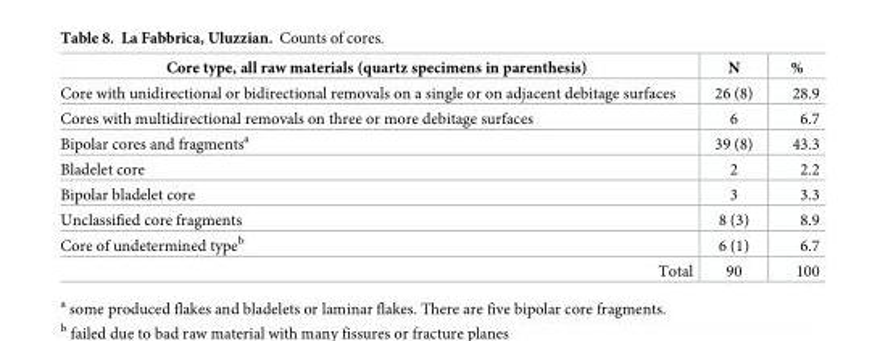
<table><thead><tr><td>Core type, all raw materials (quartz specimens in parenthesis)</td><td>N</td><td>%</td></tr></thead><tbody><tr><td>Core with unidirectional or bidirectional removals on a single or on adjacent debitage surfaces</td><td>26 (8)</td><td>28.9</td></tr><tr><td>Cores with multidirectional removals on three or more debitage surfaces</td><td>6</td><td>6.7</td></tr><tr><td>Bipolar cores and fragments<sup>a</sup></td><td>39 (8)</td><td>43.3</td></tr><tr><td>Bladelet core</td><td>2</td><td>2.2</td></tr><tr><td>Bipolar bladelet core</td><td>3</td><td>3.3</td></tr><tr><td>Unclassified core fragments</td><td>8 (3)</td><td>8.9</td></tr><tr><td>Core of undetermined type<sup>b</sup></td><td>6 (1)</td><td>6.7</td></tr><tr><td>Total</td><td>90</td><td>100</td></tr></tbody></table>